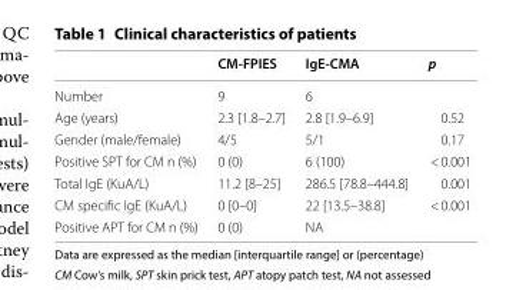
<table><thead><tr><td></td><td>CM‑FPIES</td><td>IgE‑CMA</td><td>p</td></tr></thead><tbody><tr><td>Number</td><td>9</td><td>6</td><td></td></tr><tr><td>Age (years)</td><td>2.3 [1.8–2.7]</td><td>2.8 [1.9–6.9]</td><td>0.52</td></tr><tr><td>Gender (male/female)</td><td>4/5</td><td>5/1</td><td>0.17</td></tr><tr><td>Positive SPT for CM n (%)</td><td>0 (0)</td><td>6 (100)</td><td>&lt; 0.001</td></tr><tr><td>Total IgE (KuA/L)</td><td>11.2 [8–25]</td><td>286.5 [78.8–444.8]</td><td>0.001</td></tr><tr><td>CM specific IgE (KuA/L)</td><td>0 [0–0]</td><td>22 [13.5–38.8]</td><td>&lt; 0.001</td></tr><tr><td>Positive APT for CM n (%)</td><td>0 (0)</td><td>NA</td><td></td></tr></tbody></table>